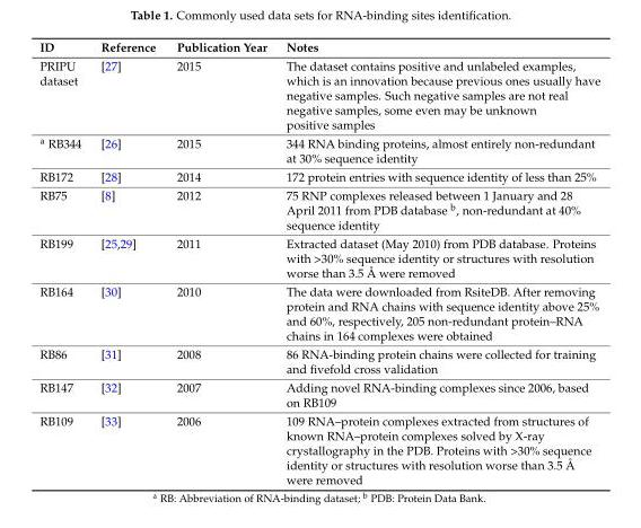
<table><thead><tr><td>ID</td><td>Reference</td><td>Publication Year</td><td>Notes</td></tr></thead><tbody><tr><td>PRIPU dataset</td><td>[27]</td><td>2015</td><td>The dataset contains positive and unlabeled examples, which is an innovation because previous ones usually have negative samples. Such negative samples are not real negative samples, some even may be unknown positive samples</td></tr><tr><td><sup>a</sup> RB344</td><td>[26]</td><td>2015</td><td>344 RNA binding proteins, almost entirely non-redundant at 30% sequence identity</td></tr><tr><td>RB172</td><td>[28]</td><td>2014</td><td>172 protein entries with sequence identity of less than 25%</td></tr><tr><td>RB75</td><td>[8]</td><td>2012</td><td>75 RNP complexes released between 1 January and 28 April 2011 from PDB database <sup>b</sup>, non-redundant at 40% sequence identity</td></tr><tr><td>RB199</td><td>[25,29]</td><td>2011</td><td>Extracted dataset (May 2010) from PDB database. Proteins with &gt;30% sequence identity or structures with resolution worse than 3.5 Å were removed</td></tr><tr><td>RB164</td><td>[30]</td><td>2010</td><td>The data were downloaded from RsiteDB. After removing protein and RNA chains with sequence identity above 25% and 60%, respectively, 205 non-redundant protein–RNA chains in 164 complexes were obtained</td></tr><tr><td>RB86</td><td>[31]</td><td>2008</td><td>86 RNA-binding protein chains were collected for training and fivefold cross validation</td></tr><tr><td>RB147</td><td>[32]</td><td>2007</td><td>Adding novel RNA-binding complexes since 2006, based on RB109</td></tr><tr><td>RB109</td><td>[33]</td><td>2006</td><td>109 RNA–protein complexes extracted from structures of known RNA–protein complexes solved by X-ray crystallography in the PDB. Proteins with &gt;30% sequence identity or structures with resolution worse than 3.5 Å were removed</td></tr></tbody></table>